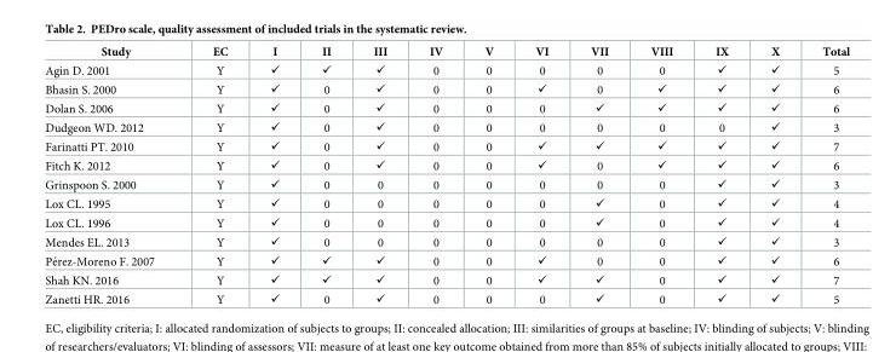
<table><thead><tr><td>Study</td><td>EC</td><td>I</td><td>II</td><td>III</td><td>IV</td><td>V</td><td>VI</td><td>VII</td><td>VIII</td><td>IX</td><td>X</td><td>Total</td></tr></thead><tbody><tr><td>Agin D. 2001</td><td>Y</td><td>✓</td><td>✓</td><td>✓</td><td>0</td><td>0</td><td>0</td><td>0</td><td>0</td><td>✓</td><td>✓</td><td>5</td></tr><tr><td>Bhasin S. 2000</td><td>Y</td><td>✓</td><td>0</td><td>✓</td><td>0</td><td>0</td><td>✓</td><td>0</td><td>✓</td><td>✓</td><td>✓</td><td>6</td></tr><tr><td>Dolan S. 2006</td><td>Y</td><td>✓</td><td>0</td><td>✓</td><td>0</td><td>0</td><td>0</td><td>✓</td><td>✓</td><td>✓</td><td>✓</td><td>6</td></tr><tr><td>Dudgeon WD. 2012</td><td>Y</td><td>✓</td><td>0</td><td>✓</td><td>0</td><td>0</td><td>0</td><td>0</td><td>0</td><td>0</td><td>✓</td><td>3</td></tr><tr><td>Farinatti PT. 2010</td><td>Y</td><td>✓</td><td>0</td><td>✓</td><td>0</td><td>0</td><td>✓</td><td>✓</td><td>✓</td><td>✓</td><td>✓</td><td>7</td></tr><tr><td>Fitch K. 2012</td><td>Y</td><td>✓</td><td>0</td><td>✓</td><td>0</td><td>0</td><td>✓</td><td>0</td><td>✓</td><td>✓</td><td>✓</td><td>6</td></tr><tr><td>Grinspoon S. 2000</td><td>Y</td><td>✓</td><td>0</td><td>0</td><td>0</td><td>0</td><td>0</td><td>0</td><td>0</td><td>✓</td><td>✓</td><td>3</td></tr><tr><td>Lox CL. 1995</td><td>Y</td><td>✓</td><td>0</td><td>0</td><td>0</td><td>0</td><td>0</td><td>✓</td><td>0</td><td>✓</td><td>✓</td><td>4</td></tr><tr><td>Lox CL. 1996</td><td>Y</td><td>✓</td><td>0</td><td>0</td><td>0</td><td>0</td><td>0</td><td>✓</td><td>0</td><td>✓</td><td>✓</td><td>4</td></tr><tr><td>Mendes EL. 2013</td><td>Y</td><td>✓</td><td>0</td><td>0</td><td>0</td><td>0</td><td>0</td><td>0</td><td>0</td><td>✓</td><td>✓</td><td>3</td></tr><tr><td>Pe´rez-Moreno F. 2007</td><td>Y</td><td>✓</td><td>✓</td><td>✓</td><td>0</td><td>0</td><td>✓</td><td>0</td><td>0</td><td>✓</td><td>✓</td><td>6</td></tr><tr><td>Shah KN. 2016</td><td>Y</td><td>✓</td><td>✓</td><td>✓</td><td>0</td><td>0</td><td>✓</td><td>✓</td><td>0</td><td>✓</td><td>✓</td><td>7</td></tr><tr><td>Zanetti HR. 2016</td><td>Y</td><td>✓</td><td>0</td><td>✓</td><td>0</td><td>0</td><td>0</td><td>✓</td><td>0</td><td>✓</td><td>✓</td><td>5</td></tr></tbody></table>